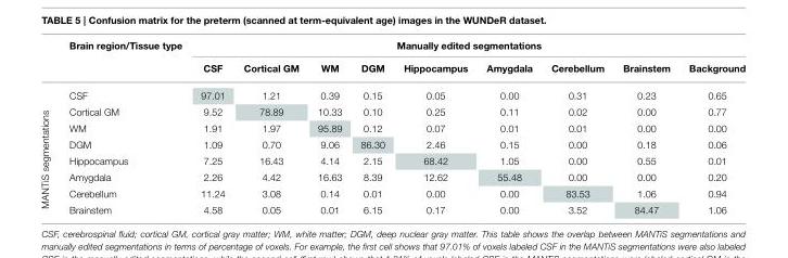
<table><thead><tr><td rowspan="2"></td><td rowspan="2">Brain region/Tissue type</td><td colspan="9">Manually edited segmentations</td></tr><tr><td>CSF</td><td>Cortical GM</td><td>WM</td><td>DGM</td><td>Hippocampus</td><td>Amygdala</td><td>Cerebellum</td><td>Brainstem</td><td>Background</td></tr></thead><tbody><tr><td rowspan="8">MANTiS segmentations</td><td>CSF</td><td>97.01</td><td>1.21</td><td>0.39</td><td>0.15</td><td>0.05</td><td>0.00</td><td>0.31</td><td>0.23</td><td>0.65</td></tr><tr><td>Cortical GM</td><td>9.52</td><td>78.89</td><td>10.33</td><td>0.10</td><td>0.25</td><td>0.11</td><td>0.02</td><td>0.00</td><td>0.77</td></tr><tr><td>WM</td><td>1.91</td><td>1.97</td><td>95.89</td><td>0.12</td><td>0.07</td><td>0.01</td><td>0.01</td><td>0.00</td><td>0.00</td></tr><tr><td>DGM</td><td>1.09</td><td>0.70</td><td>9.06</td><td>86.30</td><td>2.46</td><td>0.15</td><td>0.00</td><td>0.18</td><td>0.06</td></tr><tr><td>Hippocampus</td><td>7.25</td><td>16.43</td><td>4.14</td><td>2.15</td><td>68.42</td><td>1.05</td><td>0.00</td><td>0.55</td><td>0.01</td></tr><tr><td>Amygdala</td><td>2.26</td><td>4.42</td><td>16.63</td><td>8.39</td><td>12.62</td><td>55.48</td><td>0.00</td><td>0.00</td><td>0.20</td></tr><tr><td>Cerebellum</td><td>11.24</td><td>3.08</td><td>0.14</td><td>0.01</td><td>0.00</td><td>0.00</td><td>83.53</td><td>1.06</td><td>0.94</td></tr><tr><td>Brainstem</td><td>4.58</td><td>0.05</td><td>0.01</td><td>6.15</td><td>0.17</td><td>0.00</td><td>3.52</td><td>84.47</td><td>1.06</td></tr></tbody></table>